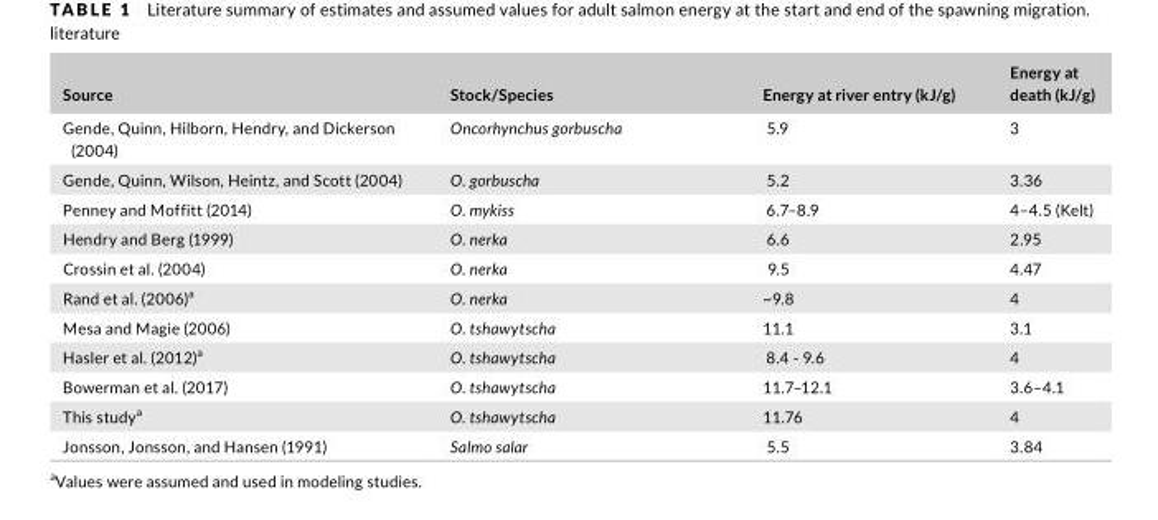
<table><thead><tr><td>Source</td><td>Stock/Species</td><td>Energy at river entry (kJ/g)</td><td>Energy at death (kJ/g)</td></tr></thead><tbody><tr><td>Gende, Quinn, Hilborn, Hendry, and Dickerson (2004)</td><td>Oncorhynchus gorbuscha</td><td>5.9</td><td>3</td></tr><tr><td>Gende, Quinn, Wilson, Heintz, and Scott (2004)</td><td>O. gorbuscha</td><td>5.2</td><td>3.36</td></tr><tr><td>Penney and Moffitt (2014)</td><td>O. mykiss</td><td>6.7–8.9</td><td>4–4.5 (Kelt)</td></tr><tr><td>Hendry and Berg (1999)</td><td>O. nerka</td><td>6.6</td><td>2.95</td></tr><tr><td>Crossin et al. (2004)</td><td>O. nerka</td><td>9.5</td><td>4.47</td></tr><tr><td>Rand et al. (2006)<sup>a</sup></td><td>O. nerka</td><td>~9.8</td><td>4</td></tr><tr><td>Mesa and Magie (2006)</td><td>O. tshawytscha</td><td>11.1</td><td>3.1</td></tr><tr><td>Hasler et al. (2012)<sup>a</sup></td><td>O. tshawytscha</td><td>8.4 - 9.6</td><td>4</td></tr><tr><td>Bowerman et al. (2017)</td><td>O. tshawytscha</td><td>11.7–12.1</td><td>3.6–4.1</td></tr><tr><td>This study<sup>a</sup></td><td>O. tshawytscha</td><td>11.76</td><td>4</td></tr><tr><td>Jonsson, Jonsson, and Hansen (1991)</td><td>Salmo salar</td><td>5.5</td><td>3.84</td></tr></tbody></table>